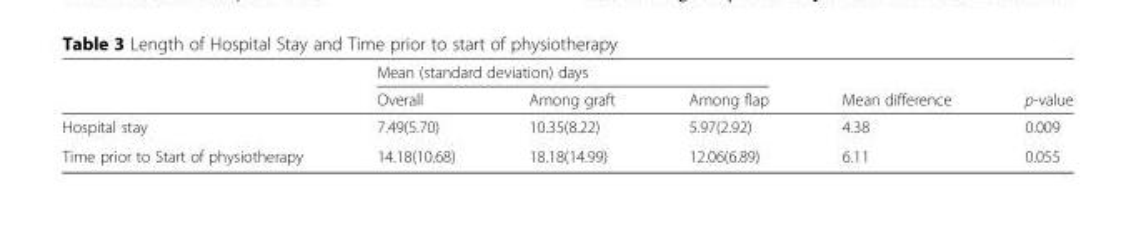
<table><thead><tr><td rowspan="2"></td><td colspan="3">Mean (standard deviation) days</td><td rowspan="2">Mean difference</td><td rowspan="2">p-value</td></tr><tr><td>Overall</td><td>Among graft</td><td>Among flap</td></tr></thead><tbody><tr><td>Hospital stay</td><td>7.49(5.70)</td><td>10.35(8.22)</td><td>5.97(2.92)</td><td>4.38</td><td>0.009</td></tr><tr><td>Time prior to Start of physiotherapy</td><td>14.18(10.68)</td><td>18.18(14.99)</td><td>12.06(6.89)</td><td>6.11</td><td>0.055</td></tr></tbody></table>